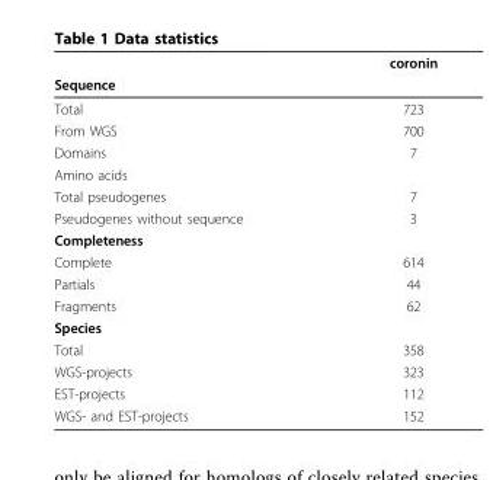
<table><thead><tr><td rowspan="2">Sequence</td><td rowspan="2">coronin</td></tr><tr></tr></thead><tbody><tr><td>Total</td><td>723</td></tr><tr><td>From WGS</td><td>700</td></tr><tr><td>Domains</td><td>7</td></tr><tr><td colspan="2">Amino acids</td></tr><tr><td>Total pseudogenes</td><td>7</td></tr><tr><td>Pseudogenes without sequence</td><td>3</td></tr><tr><td colspan="2">Completeness</td></tr><tr><td>Complete</td><td>614</td></tr><tr><td>Partials</td><td>44</td></tr><tr><td>Fragments</td><td>62</td></tr><tr><td colspan="2">Species</td></tr><tr><td>Total</td><td>358</td></tr><tr><td>WGS-projects</td><td>323</td></tr><tr><td>EST-projects</td><td>112</td></tr><tr><td>WGS- and EST-projects</td><td>152</td></tr></tbody></table>